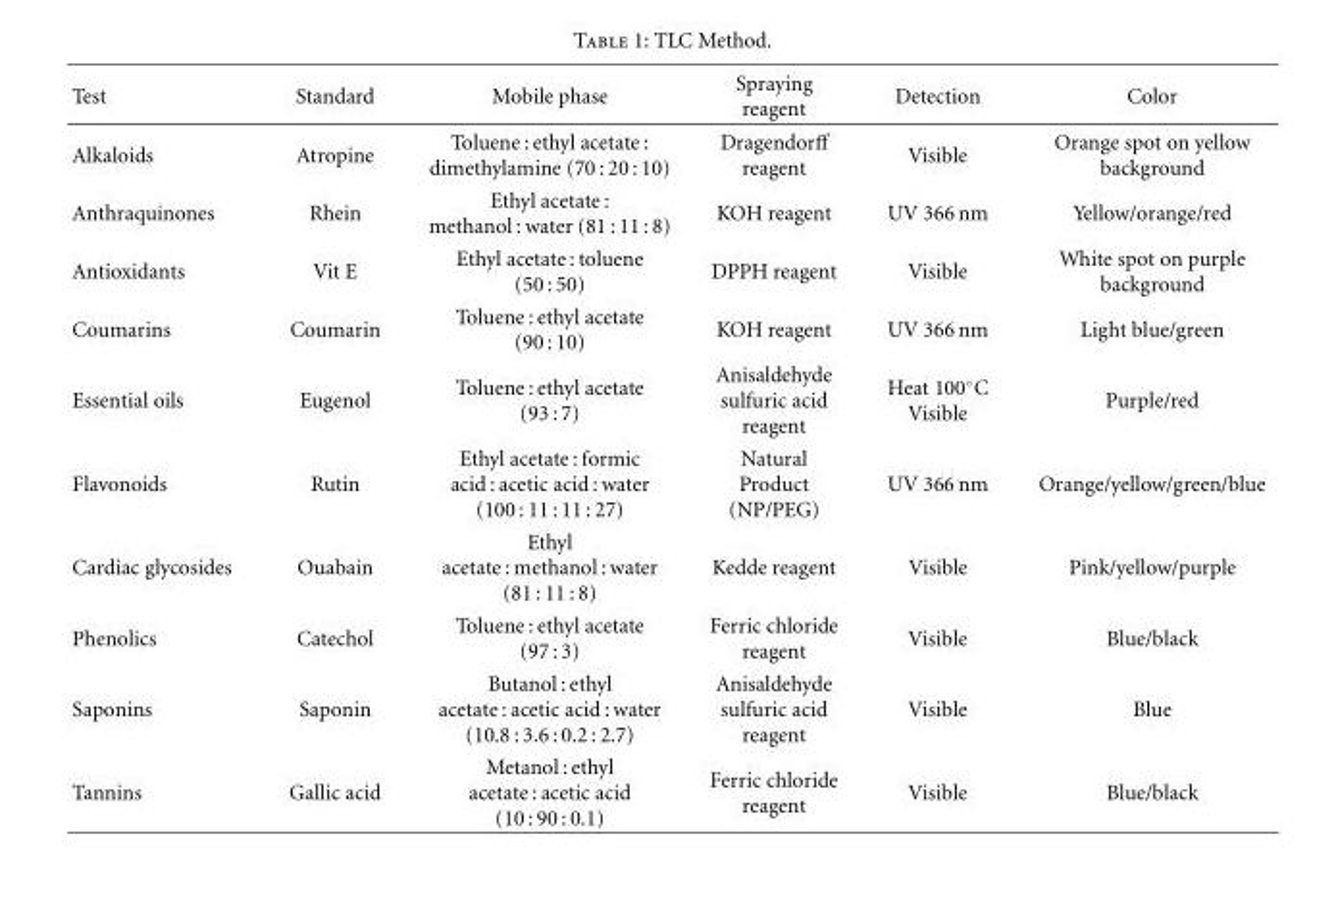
<table><thead><tr><td>Test</td><td>Standard</td><td>Mobile phase</td><td>Spraying reagent</td><td>Detection</td><td>Color</td></tr></thead><tbody><tr><td>Alkaloids</td><td>Atropine</td><td>Toluene : ethyl acetate : dimethylamine (70 : 20 : 10)</td><td>Dragendorff reagent</td><td>Visible</td><td>Orange spot on yellow background</td></tr><tr><td>Anthraquinones</td><td>Rhein</td><td>Ethyl acetate : methanol : water (81 : 11 : 8)</td><td>KOH reagent</td><td>UV 366 nm</td><td>Yellow/orange/red</td></tr><tr><td>Antioxidants</td><td>Vit E</td><td>Ethyl acetate : toluene (50 : 50)</td><td>DPPH reagent</td><td>Visible</td><td>White spot on purple background</td></tr><tr><td>Coumarins</td><td>Coumarin</td><td>Toluene : ethyl acetate (90 : 10)</td><td>KOH reagent</td><td>UV 366 nm</td><td>Light blue/green</td></tr><tr><td>Essential oils</td><td>Eugenol</td><td>Toluene : ethyl acetate (93 : 7)</td><td>Anisaldehyde sulfuric acid reagent</td><td>Heat 100◦C Visible</td><td>Purple/red</td></tr><tr><td>Flavonoids</td><td>Rutin</td><td>Ethyl acetate : formic acid : acetic acid : water (100 : 11 : 11 : 27)</td><td>Natural Product (NP/PEG)</td><td>UV 366 nm</td><td>Orange/yellow/green/blue</td></tr><tr><td>Cardiac glycosides</td><td>Ouabain</td><td>Ethyl acetate : methanol : water (81 : 11 : 8)</td><td>Kedde reagent</td><td>Visible</td><td>Pink/yellow/purple</td></tr><tr><td>Phenolics</td><td>Catechol</td><td>Toluene : ethyl acetate (97 : 3)</td><td>Ferric chloride reagent</td><td>Visible</td><td>Blue/black</td></tr><tr><td>Saponins</td><td>Saponin</td><td>Butanol : ethyl acetate : acetic acid : water (10.8 : 3.6 : 0.2 : 2.7)</td><td>Anisaldehyde sulfuric acid reagent</td><td>Visible</td><td>Blue</td></tr><tr><td>Tannins</td><td>Gallic acid</td><td>Metanol : ethyl acetate : acetic acid (10 : 90 : 0.1)</td><td>Ferric chloride reagent</td><td>Visible</td><td>Blue/black</td></tr></tbody></table>